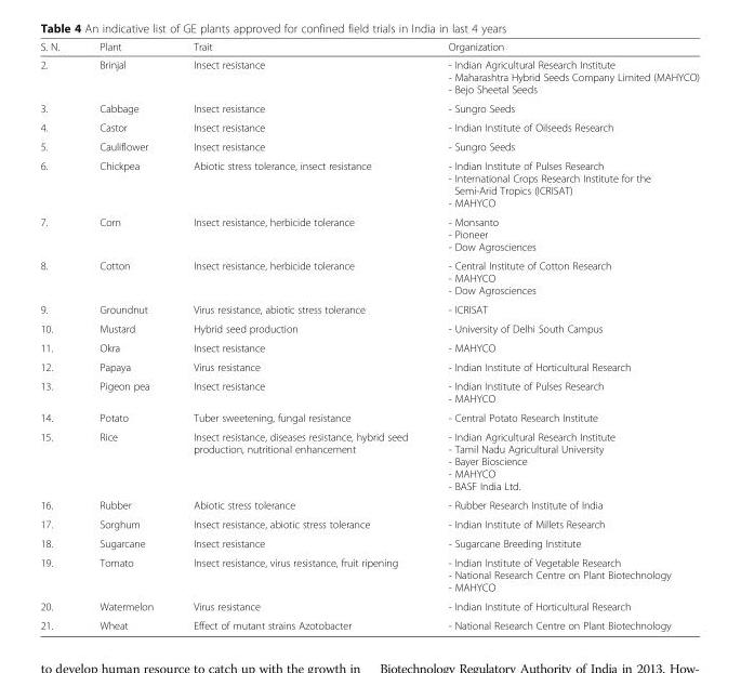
<table><thead><tr><td>S. N.</td><td>Plant</td><td>Trait</td><td>Organization</td></tr></thead><tbody><tr><td>2.</td><td>Brinjal</td><td>Insect resistance</td><td>- Indian Agricultural Research Institute - Maharashtra Hybrid Seeds Company Limited (MAHYCO) - Bejo Sheetal Seeds</td></tr><tr><td>3.</td><td>Cabbage</td><td>Insect resistance</td><td>- Sungro Seeds</td></tr><tr><td>4.</td><td>Castor</td><td>Insect resistance</td><td>- Indian Institute of Oilseeds Research</td></tr><tr><td>5.</td><td>Cauliflower</td><td>Insect resistance</td><td>- Sungro Seeds</td></tr><tr><td>6.</td><td>Chickpea</td><td>Abiotic stress tolerance, insect resistance</td><td>- Indian Institute of Pulses Research - International Crops Research Institute for the Semi-Arid Tropics (ICRISAT) - MAHYCO</td></tr><tr><td>7.</td><td>Corn</td><td>Insect resistance, herbicide tolerance</td><td>- Monsanto - Pioneer - Dow Agrosciences</td></tr><tr><td>8.</td><td>Cotton</td><td>Insect resistance, herbicide tolerance</td><td>- Central Institute of Cotton Research - MAHYCO - Dow Agrosciences</td></tr><tr><td>9.</td><td>Groundnut</td><td>Virus resistance, abiotic stress tolerance</td><td>- ICRISAT</td></tr><tr><td>10.</td><td>Mustard</td><td>Hybrid seed production</td><td>- University of Delhi South Campus</td></tr><tr><td>11.</td><td>Okra</td><td>Insect resistance</td><td>- MAHYCO</td></tr><tr><td>12.</td><td>Papaya</td><td>Virus resistance</td><td>- Indian Institute of Horticultural Research</td></tr><tr><td>13.</td><td>Pigeon pea</td><td>Insect resistance</td><td>- Indian Institute of Pulses Research - MAHYCO</td></tr><tr><td>14.</td><td>Potato</td><td>Tuber sweetening, fungal resistance</td><td>- Central Potato Research Institute</td></tr><tr><td>15.</td><td>Rice</td><td>Insect resistance, diseases resistance, hybrid seed production, nutritional enhancement</td><td>- Indian Agricultural Research Institute - Tamil Nadu Agricultural University - Bayer Bioscience - MAHYCO - BASF India Ltd.</td></tr><tr><td>16.</td><td>Rubber</td><td>Abiotic stress tolerance</td><td>- Rubber Research Institute of India</td></tr><tr><td>17.</td><td>Sorghum</td><td>Insect resistance, abiotic stress tolerance</td><td>- Indian Institute of Millets Research</td></tr><tr><td>18.</td><td>Sugarcane</td><td>Insect resistance</td><td>- Sugarcane Breeding Institute</td></tr><tr><td>19.</td><td>Tomato</td><td>Insect resistance, virus resistance, fruit ripening</td><td>- Indian Institute of Vegetable Research - National Research Centre on Plant Biotechnology - MAHYCO</td></tr><tr><td>20.</td><td>Watermelon</td><td>Virus resistance</td><td>- Indian Institute of Horticultural Research</td></tr><tr><td>21.</td><td>Wheat</td><td>Effect of mutant strains Azotobacter</td><td>- National Research Centre on Plant Biotechnology</td></tr></tbody></table>